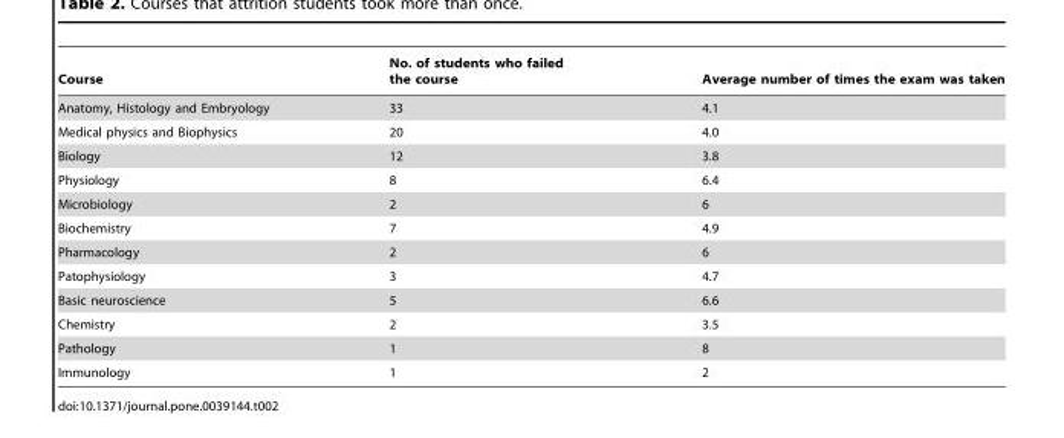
<table><thead><tr><td>Course</td><td>No. of students who failed the course</td><td>Average number of times the exam was taken</td></tr></thead><tbody><tr><td>Anatomy, Histology and Embryology</td><td>33</td><td>4.1</td></tr><tr><td>Medical physics and Biophysics</td><td>20</td><td>4.0</td></tr><tr><td>Biology</td><td>12</td><td>3.8</td></tr><tr><td>Physiology</td><td>8</td><td>6.4</td></tr><tr><td>Microbiology</td><td>2</td><td>6</td></tr><tr><td>Biochemistry</td><td>7</td><td>4.9</td></tr><tr><td>Pharmacology</td><td>2</td><td>6</td></tr><tr><td>Patophysiology</td><td>3</td><td>4.7</td></tr><tr><td>Basic neuroscience</td><td>5</td><td>6.6</td></tr><tr><td>Chemistry</td><td>2</td><td>3.5</td></tr><tr><td>Pathology</td><td>1</td><td>8</td></tr><tr><td>Immunology</td><td>1</td><td>2</td></tr></tbody></table>